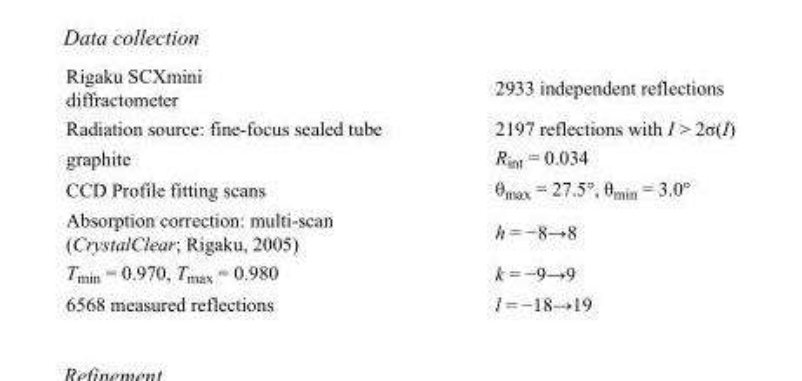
<table><tbody><tr><td>Rigaku SCXmini diffractometer</td><td>2933 independent reflections</td></tr><tr><td>Radiation source: fine-focus sealed tube</td><td>2197 reflections with I &gt; 2σ(I)</td></tr><tr><td>graphite</td><td>R<sub>int</sub> = 0.034</td></tr><tr><td>CCD Profile fitting scans</td><td>θ<sub>max</sub> = 27.5°, θ<sub>min</sub> = 3.0°</td></tr><tr><td>Absorption correction: multi-scan (CrystalClear; Rigaku, 2005)</td><td>h = −8→8</td></tr><tr><td>T<sub>min</sub> = 0.970, T<sub>max</sub> = 0.980</td><td>k = −9→9</td></tr><tr><td>6568 measured reflections</td><td>l = −18→19</td></tr></tbody></table>